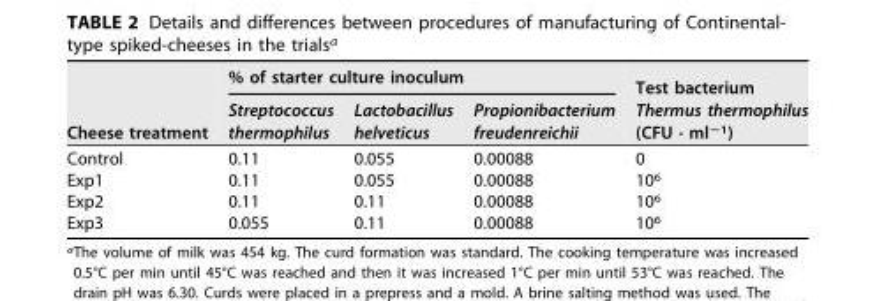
<table><thead><tr><td rowspan="2">Cheese treatment</td><td colspan="3">% of starter culture inoculum</td><td rowspan="2">Test bacterium Thermus thermophilus (CFU · ml−1)</td></tr><tr><td>Streptococcus thermophilus</td><td>Lactobacillus helveticus</td><td>Propionibacterium freudenreichii</td></tr></thead><tbody><tr><td>Control</td><td>0.11</td><td>0.055</td><td>0.00088</td><td>0</td></tr><tr><td>Exp1</td><td>0.11</td><td>0.055</td><td>0.00088</td><td>10<sup>6</sup></td></tr><tr><td>Exp2</td><td>0.11</td><td>0.11</td><td>0.00088</td><td>10<sup>6</sup></td></tr><tr><td>Exp3</td><td>0.055</td><td>0.11</td><td>0.00088</td><td>10<sup>6</sup></td></tr></tbody></table>